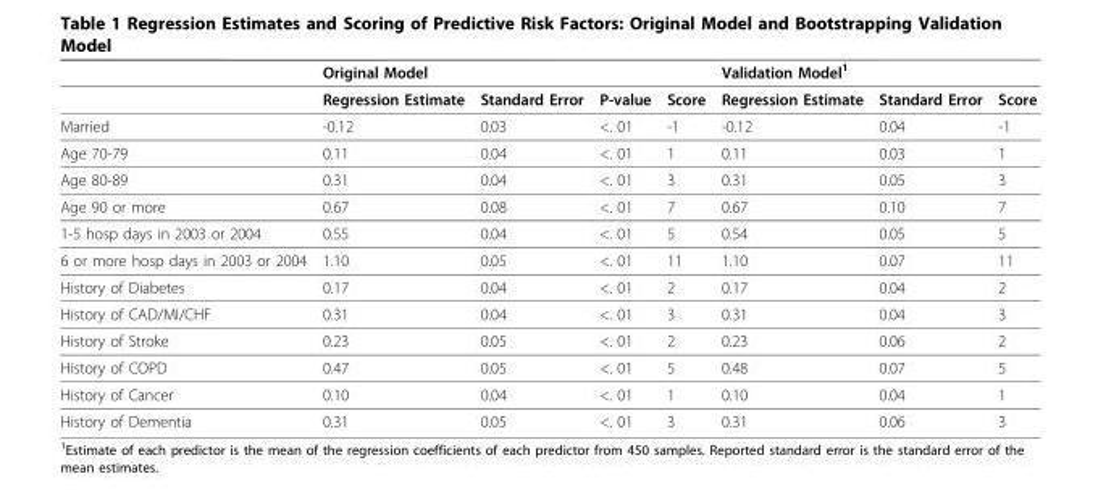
<table><thead><tr><td rowspan="2"></td><td colspan="4">Original Model</td><td colspan="3">Validation Model<sup>1</sup></td></tr><tr><td>Regression Estimate</td><td>Standard Error</td><td>P-value</td><td>Score</td><td>Regression Estimate</td><td>Standard Error</td><td>Score</td></tr></thead><tbody><tr><td>Married</td><td>-0.12</td><td>0.03</td><td>&lt;. 01</td><td>-1</td><td>-0.12</td><td>0.04</td><td>-1</td></tr><tr><td>Age 70-79</td><td>0.11</td><td>0.04</td><td>&lt;. 01</td><td>1</td><td>0.11</td><td>0.03</td><td>1</td></tr><tr><td>Age 80-89</td><td>0.31</td><td>0.04</td><td>&lt;. 01</td><td>3</td><td>0.31</td><td>0.05</td><td>3</td></tr><tr><td>Age 90 or more</td><td>0.67</td><td>0.08</td><td>&lt;. 01</td><td>7</td><td>0.67</td><td>0.10</td><td>7</td></tr><tr><td>1-5 hosp days in 2003 or 2004</td><td>0.55</td><td>0.04</td><td>&lt;. 01</td><td>5</td><td>0.54</td><td>0.05</td><td>5</td></tr><tr><td>6 or more hosp days in 2003 or 2004</td><td>1.10</td><td>0.05</td><td>&lt;. 01</td><td>11</td><td>1.10</td><td>0.07</td><td>11</td></tr><tr><td>History of Diabetes</td><td>0.17</td><td>0.04</td><td>&lt;. 01</td><td>2</td><td>0.17</td><td>0.04</td><td>2</td></tr><tr><td>History of CAD/MI/CHF</td><td>0.31</td><td>0.04</td><td>&lt;. 01</td><td>3</td><td>0.31</td><td>0.04</td><td>3</td></tr><tr><td>History of Stroke</td><td>0.23</td><td>0.05</td><td>&lt;. 01</td><td>2</td><td>0.23</td><td>0.06</td><td>2</td></tr><tr><td>History of COPD</td><td>0.47</td><td>0.05</td><td>&lt;. 01</td><td>5</td><td>0.48</td><td>0.07</td><td>5</td></tr><tr><td>History of Cancer</td><td>0.10</td><td>0.04</td><td>&lt;. 01</td><td>1</td><td>0.10</td><td>0.04</td><td>1</td></tr><tr><td>History of Dementia</td><td>0.31</td><td>0.05</td><td>&lt;. 01</td><td>3</td><td>0.31</td><td>0.06</td><td>3</td></tr></tbody></table>